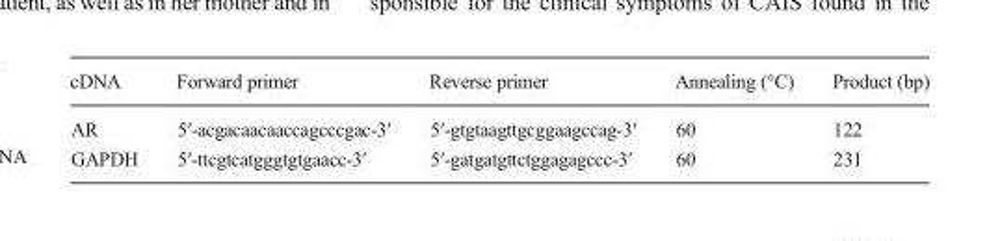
<table><thead><tr><td>cDNA</td><td>Forward primer</td><td>Reverse primer</td><td>Annealing (°C)</td><td>Product (bp)</td></tr></thead><tbody><tr><td>AR</td><td>5′-acgacaacaaccagcccgac-3′</td><td>5′-gtgtaagttgcggaagccag-3′</td><td>60</td><td>122</td></tr><tr><td>GAPDH</td><td>5′-ttcgtcatgggtgtgaacc-3′</td><td>5′-gatgatgttctggagagccc-3′</td><td>60</td><td>231</td></tr></tbody></table>